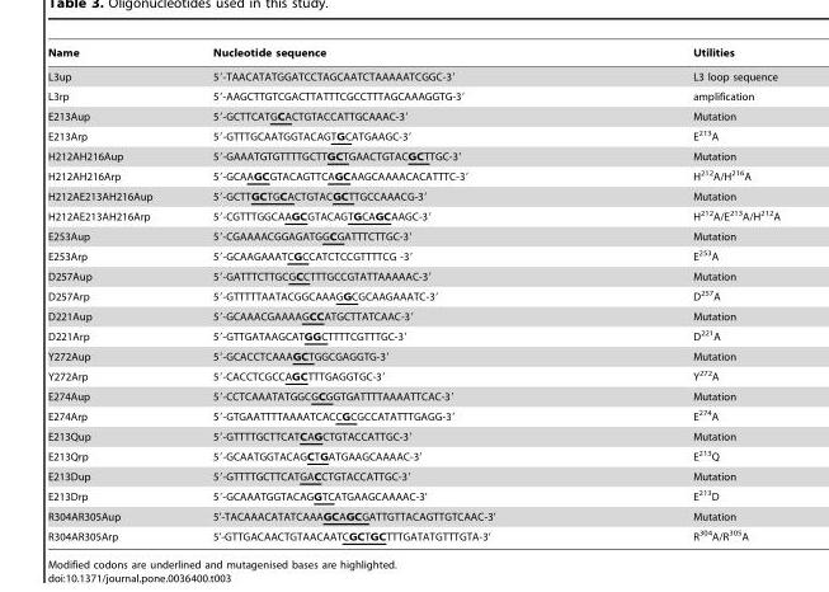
<table><thead><tr><td>Name</td><td>Nucleotide sequence</td><td>Utilities</td></tr></thead><tbody><tr><td>L3up</td><td>5′-TAACATATGGATCCTAGCAATCTAAAAATCGGC-3′</td><td>L3 loop sequence</td></tr><tr><td>L3rp</td><td>5′-AAGCTTGTCGACTTATTTCGCCTTTAGCAAAGGTG-3′</td><td>amplification</td></tr><tr><td>E213Aup</td><td>5′-GCTTCATGCACTGTACCATTGCAAAC-3′</td><td>Mutation</td></tr><tr><td>E213Arp</td><td>5′-GTTTGCAATGGTACAGTGCATGAAGC-3′</td><td>E<sup>213</sup>A</td></tr><tr><td>H212AH216Aup</td><td>5′-GAAATGTGTTTTGCTTGCTGAACTGTACGCTTGC-3′</td><td>Mutation</td></tr><tr><td>H212AH216Arp</td><td>5′-GCAAGCGTACAGTTCAGCAAGCAAAACACATTTC-3′</td><td>H<sup>212</sup>A/H<sup>216</sup>A</td></tr><tr><td>H212AE213AH216Aup</td><td>5′-GCTTGCTGCACTGTACGCTTGCCAAACG-3′</td><td>Mutation</td></tr><tr><td>H212AE213AH216Arp</td><td>5′-CGTTTGGCAAGCGTACAGTGCAGCAAGC-3′</td><td>H<sup>212</sup>A/E<sup>213</sup>A/H<sup>212</sup>A</td></tr><tr><td>E253Aup</td><td>5′-CGAAAACGGAGATGGCGATTTCTTGC-3′</td><td>Mutation</td></tr><tr><td>E253Arp</td><td>5′-GCAAGAAATCGCCATCTCCGTTTTCG -3′</td><td>E<sup>253</sup>A</td></tr><tr><td>D257Aup</td><td>5′-GATTTCTTGCGCCTTTGCCGTATTAAAAAC-3′</td><td>Mutation</td></tr><tr><td>D257Arp</td><td>5′-GTTTTTAATACGGCAAAGGCGCAAGAAATC-3′</td><td>D<sup>257</sup>A</td></tr><tr><td>D221Aup</td><td>5′-GCAAACGAAAAGCCATGCTTATCAAC-3′</td><td>Mutation</td></tr><tr><td>D221Arp</td><td>5′-GTTGATAAGCATGGCTTTTCGTTTGC-3′</td><td>D<sup>221</sup>A</td></tr><tr><td>Y272Aup</td><td>5′-GCACCTCAAAGCTGGCGAGGTG-3′</td><td>Mutation</td></tr><tr><td>Y272Arp</td><td>5′-CACCTCGCCAGCTTTGAGGTGC-3′</td><td>Y<sup>272</sup>A</td></tr><tr><td>E274Aup</td><td>5′-CCTCAAATATGGCGCGGTGATTTTAAAATTCAC-3′</td><td>Mutation</td></tr><tr><td>E274Arp</td><td>5′-GTGAATTTTAAAATCACCGCGCCATATTTGAGG-3′</td><td>E<sup>274</sup>A</td></tr><tr><td>E213Qup</td><td>5′-GTTTTGCTTCATCAGCTGTACCATTGC-3′</td><td>Mutation</td></tr><tr><td>E213Qrp</td><td>5′-GCAATGGTACAGCTGATGAAGCAAAAC-3′</td><td>E<sup>213</sup>Q</td></tr><tr><td>E213Dup</td><td>5′-GTTTTGCTTCATGACCTGTACCATTGC-3′</td><td>Mutation</td></tr><tr><td>E213Drp</td><td>5′-GCAAATGGTACAGGTCATGAAGCAAAAC-3’</td><td>E<sup>213</sup>D</td></tr><tr><td>R304AR305Aup</td><td>5’-TACAAACATATCAAAGCAGCGATTGTTACAGTTGTCAAC-3’</td><td>Mutation</td></tr><tr><td>R304AR305Arp</td><td>5’-GTTGACAACTGTAACAATCGCTGCTTTGATATGTTTGTA-3’</td><td>R<sup>304</sup>A/R<sup>305</sup>A</td></tr></tbody></table>